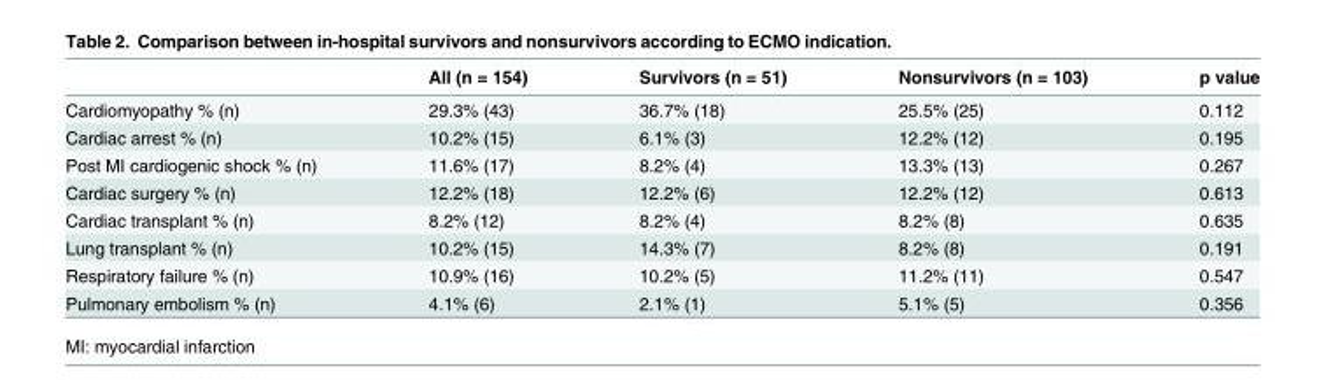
<table><thead><tr><td></td><td>All (n = 154)</td><td>Survivors (n = 51)</td><td>Nonsurvivors (n = 103)</td><td>p value</td></tr></thead><tbody><tr><td>Cardiomyopathy % (n)</td><td>29.3% (43)</td><td>36.7% (18)</td><td>25.5% (25)</td><td>0.112</td></tr><tr><td>Cardiac arrest % (n)</td><td>10.2% (15)</td><td>6.1% (3)</td><td>12.2% (12)</td><td>0.195</td></tr><tr><td>Post MI cardiogenic shock % (n)</td><td>11.6% (17)</td><td>8.2% (4)</td><td>13.3% (13)</td><td>0.267</td></tr><tr><td>Cardiac surgery % (n)</td><td>12.2% (18)</td><td>12.2% (6)</td><td>12.2% (12)</td><td>0.613</td></tr><tr><td>Cardiac transplant % (n)</td><td>8.2% (12)</td><td>8.2% (4)</td><td>8.2% (8)</td><td>0.635</td></tr><tr><td>Lung transplant % (n)</td><td>10.2% (15)</td><td>14.3% (7)</td><td>8.2% (8)</td><td>0.191</td></tr><tr><td>Respiratory failure % (n)</td><td>10.9% (16)</td><td>10.2% (5)</td><td>11.2% (11)</td><td>0.547</td></tr><tr><td>Pulmonary embolism % (n)</td><td>4.1% (6)</td><td>2.1% (1)</td><td>5.1% (5)</td><td>0.356</td></tr></tbody></table>